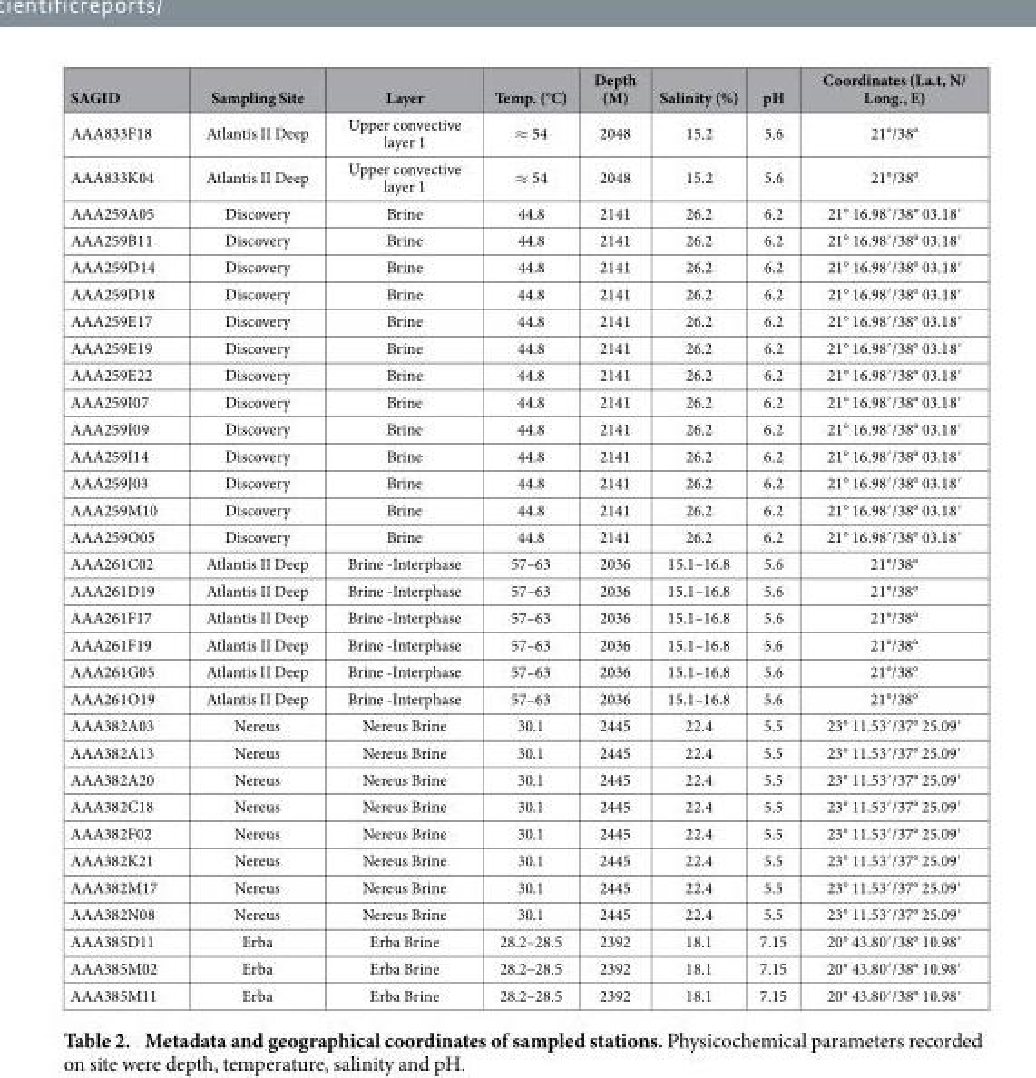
<table><thead><tr><td>SAGID</td><td>Sampling Site</td><td>Layer</td><td>Temp. (°C)</td><td>Depth (M)</td><td>Salinity (%)</td><td>pH</td><td>Coordinates (La.t, N/ Long., E)</td></tr></thead><tbody><tr><td>AAA833F18</td><td>Atlantis II Deep</td><td>Upper convective layer 1</td><td>≈ 54</td><td>2048</td><td>15.2</td><td>5.6</td><td>21°/38°</td></tr><tr><td>AAA833K04</td><td>Atlantis II Deep</td><td>Upper convective layer 1</td><td>≈ 54</td><td>2048</td><td>15.2</td><td>5.6</td><td>21°/38°</td></tr><tr><td>AAA259A05</td><td>Discovery</td><td>Brine</td><td>44.8</td><td>2141</td><td>26.2</td><td>6.2</td><td>21° 16.98′ /38° 03.18′</td></tr><tr><td>AAA259B11</td><td>Discovery</td><td>Brine</td><td>44.8</td><td>2141</td><td>26.2</td><td>6.2</td><td>21° 16.98′ /38° 03.18′</td></tr><tr><td>AAA259D14</td><td>Discovery</td><td>Brine</td><td>44.8</td><td>2141</td><td>26.2</td><td>6.2</td><td>21° 16.98′ /38° 03.18′</td></tr><tr><td>AAA259D18</td><td>Discovery</td><td>Brine</td><td>44.8</td><td>2141</td><td>26.2</td><td>6.2</td><td>21° 16.98′ /38° 03.18′</td></tr><tr><td>AAA259E17</td><td>Discovery</td><td>Brine</td><td>44.8</td><td>2141</td><td>26.2</td><td>6.2</td><td>21° 16.98′ /38° 03.18′</td></tr><tr><td>AAA259E19</td><td>Discovery</td><td>Brine</td><td>44.8</td><td>2141</td><td>26.2</td><td>6.2</td><td>21° 16.98′ /38° 03.18′</td></tr><tr><td>AAA259E22</td><td>Discovery</td><td>Brine</td><td>44.8</td><td>2141</td><td>26.2</td><td>6.2</td><td>21° 16.98′ /38° 03.18′</td></tr><tr><td>AAA259I07</td><td>Discovery</td><td>Brine</td><td>44.8</td><td>2141</td><td>26.2</td><td>6.2</td><td>21° 16.98′ /38° 03.18′</td></tr><tr><td>AAA259I09</td><td>Discovery</td><td>Brine</td><td>44.8</td><td>2141</td><td>26.2</td><td>6.2</td><td>21° 16.98′ /38° 03.18′</td></tr><tr><td>AAA259I14</td><td>Discovery</td><td>Brine</td><td>44.8</td><td>2141</td><td>26.2</td><td>6.2</td><td>21° 16.98′ /38° 03.18′</td></tr><tr><td>AAA259J03</td><td>Discovery</td><td>Brine</td><td>44.8</td><td>2141</td><td>26.2</td><td>6.2</td><td>21° 16.98′ /38° 03.18′</td></tr><tr><td>AAA259M10</td><td>Discovery</td><td>Brine</td><td>44.8</td><td>2141</td><td>26.2</td><td>6.2</td><td>21° 16.98′ /38° 03.18′</td></tr><tr><td>AAA259O05</td><td>Discovery</td><td>Brine</td><td>44.8</td><td>2141</td><td>26.2</td><td>6.2</td><td>21° 16.98′ /38° 03.18′</td></tr><tr><td>AAA261C02</td><td>Atlantis II Deep</td><td>Brine -Interphase</td><td>57–63</td><td>2036</td><td>15.1–16.8</td><td>5.6</td><td>21°/38°</td></tr><tr><td>AAA261D19</td><td>Atlantis II Deep</td><td>Brine -Interphase</td><td>57–63</td><td>2036</td><td>15.1–16.8</td><td>5.6</td><td>21°/38°</td></tr><tr><td>AAA261F17</td><td>Atlantis II Deep</td><td>Brine -Interphase</td><td>57–63</td><td>2036</td><td>15.1–16.8</td><td>5.6</td><td>21°/38°</td></tr><tr><td>AAA261F19</td><td>Atlantis II Deep</td><td>Brine -Interphase</td><td>57–63</td><td>2036</td><td>15.1–16.8</td><td>5.6</td><td>21°/38°</td></tr><tr><td>AAA261G05</td><td>Atlantis II Deep</td><td>Brine -Interphase</td><td>57–63</td><td>2036</td><td>15.1–16.8</td><td>5.6</td><td>21°/38°</td></tr><tr><td>AAA261O19</td><td>Atlantis II Deep</td><td>Brine -Interphase</td><td>57–63</td><td>2036</td><td>15.1–16.8</td><td>5.6</td><td>21°/38°</td></tr><tr><td>AAA382A03</td><td>Nereus</td><td>Nereus Brine</td><td>30.1</td><td>2445</td><td>22.4</td><td>5.5</td><td>23° 11.53′ /37° 25.09′</td></tr><tr><td>AAA382A13</td><td>Nereus</td><td>Nereus Brine</td><td>30.1</td><td>2445</td><td>22.4</td><td>5.5</td><td>23° 11.53′ /37° 25.09′</td></tr><tr><td>AAA382A20</td><td>Nereus</td><td>Nereus Brine</td><td>30.1</td><td>2445</td><td>22.4</td><td>5.5</td><td>23° 11.53′ /37° 25.09′</td></tr><tr><td>AAA382C18</td><td>Nereus</td><td>Nereus Brine</td><td>30.1</td><td>2445</td><td>22.4</td><td>5.5</td><td>23° 11.53′ /37° 25.09′</td></tr><tr><td>AAA382F02</td><td>Nereus</td><td>Nereus Brine</td><td>30.1</td><td>2445</td><td>22.4</td><td>5.5</td><td>23° 11.53′ /37° 25.09′</td></tr><tr><td>AAA382K21</td><td>Nereus</td><td>Nereus Brine</td><td>30.1</td><td>2445</td><td>22.4</td><td>5.5</td><td>23° 11.53′ /37° 25.09′</td></tr><tr><td>AAA382M17</td><td>Nereus</td><td>Nereus Brine</td><td>30.1</td><td>2445</td><td>22.4</td><td>5.5</td><td>23° 11.53′ /37° 25.09′</td></tr><tr><td>AAA382N08</td><td>Nereus</td><td>Nereus Brine</td><td>30.1</td><td>2445</td><td>22.4</td><td>5.5</td><td>23° 11.53′ /37° 25.09′</td></tr><tr><td>AAA385D11</td><td>Erba</td><td>Erba Brine</td><td>28.2–28.5</td><td>2392</td><td>18.1</td><td>7.15</td><td>20° 43.80′ /38° 10.98′</td></tr><tr><td>AAA385M02</td><td>Erba</td><td>Erba Brine</td><td>28.2–28.5</td><td>2392</td><td>18.1</td><td>7.15</td><td>20° 43.80′ /38° 10.98′</td></tr><tr><td>AAA385M11</td><td>Erba</td><td>Erba Brine</td><td>28.2–28.5</td><td>2392</td><td>18.1</td><td>7.15</td><td>20° 43.80′ /38° 10.98′</td></tr></tbody></table>